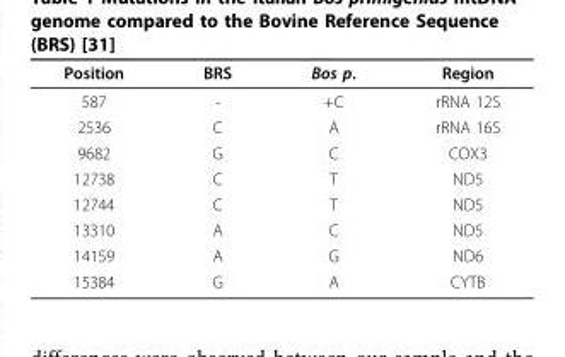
<table><thead><tr><td>Position</td><td>BRS</td><td>Bos p.</td><td>Region</td></tr></thead><tbody><tr><td>587</td><td>-</td><td>+C</td><td>rRNA 12S</td></tr><tr><td>2536</td><td>C</td><td>A</td><td>rRNA 16S</td></tr><tr><td>9682</td><td>G</td><td>C</td><td>COX3</td></tr><tr><td>12738</td><td>C</td><td>T</td><td>ND5</td></tr><tr><td>12744</td><td>C</td><td>T</td><td>ND5</td></tr><tr><td>13310</td><td>A</td><td>C</td><td>ND5</td></tr><tr><td>14159</td><td>A</td><td>G</td><td>ND6</td></tr><tr><td>15384</td><td>G</td><td>A</td><td>CYTB</td></tr></tbody></table>